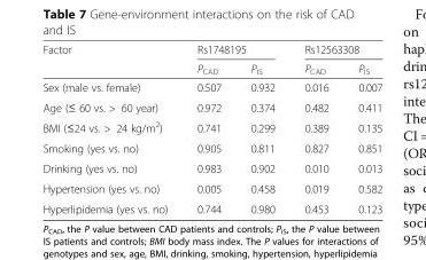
<table><thead><tr><td rowspan="2">Factor</td><td colspan="2">Rs1748195</td><td colspan="2">Rs12563308</td></tr><tr><td>P<sub>CAD</sub></td><td>P<sub>IS</sub></td><td>P<sub>CAD</sub></td><td>P<sub>IS</sub></td></tr></thead><tbody><tr><td>Sex (male vs. female)</td><td>0.507</td><td>0.932</td><td>0.016</td><td>0.007</td></tr><tr><td>Age (≤ 60 vs. &gt; 60 year)</td><td>0.972</td><td>0.374</td><td>0.482</td><td>0.411</td></tr><tr><td>BMI (≤24 vs. &gt; 24 kg/m<sup>2</sup>)</td><td>0.741</td><td>0.299</td><td>0.389</td><td>0.135</td></tr><tr><td>Smoking (yes vs. no)</td><td>0.905</td><td>0.811</td><td>0.827</td><td>0.851</td></tr><tr><td>Drinking (yes vs. no)</td><td>0.983</td><td>0.902</td><td>0.010</td><td>0.013</td></tr><tr><td>Hypertension (yes vs. no)</td><td>0.005</td><td>0.458</td><td>0.019</td><td>0.582</td></tr><tr><td>Hyperlipidemia (yes vs. no)</td><td>0.744</td><td>0.980</td><td>0.453</td><td>0.123</td></tr></tbody></table>